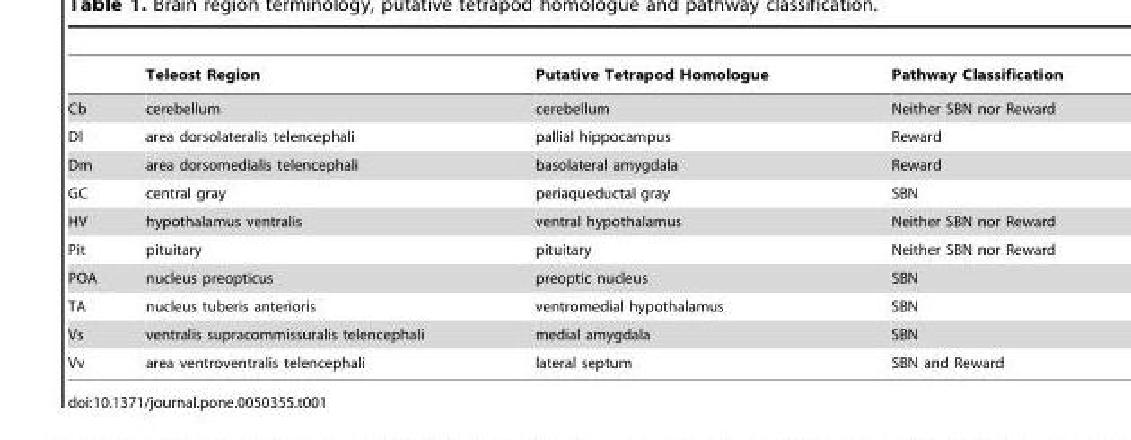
<table><thead><tr><td></td><td>Teleost Region</td><td>Putative Tetrapod Homologue</td><td>Pathway Classification</td></tr></thead><tbody><tr><td>Cb</td><td>cerebellum</td><td>cerebellum</td><td>Neither SBN nor Reward</td></tr><tr><td>Dl</td><td>area dorsolateralis telencephali</td><td>pallial hippocampus</td><td>Reward</td></tr><tr><td>Dm</td><td>area dorsomedialis telencephali</td><td>basolateral amygdala</td><td>Reward</td></tr><tr><td>GC</td><td>central gray</td><td>periaqueductal gray</td><td>SBN</td></tr><tr><td>HV</td><td>hypothalamus ventralis</td><td>ventral hypothalamus</td><td>Neither SBN nor Reward</td></tr><tr><td>Pit</td><td>pituitary</td><td>pituitary</td><td>Neither SBN nor Reward</td></tr><tr><td>POA</td><td>nucleus preopticus</td><td>preoptic nucleus</td><td>SBN</td></tr><tr><td>TA</td><td>nucleus tuberis anterioris</td><td>ventromedial hypothalamus</td><td>SBN</td></tr><tr><td>Vs</td><td>ventralis supracommissuralis telencephali</td><td>medial amygdala</td><td>SBN</td></tr><tr><td>Vv</td><td>area ventroventralis telencephali</td><td>lateral septum</td><td>SBN and Reward</td></tr></tbody></table>